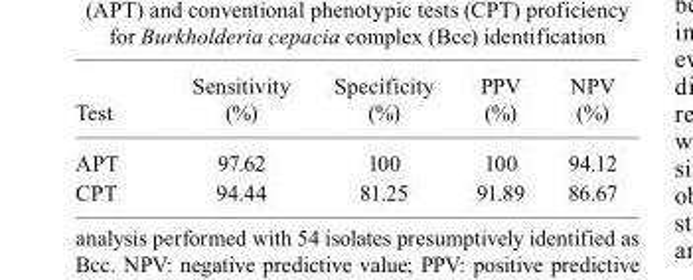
<table><thead><tr><td>Test</td><td>Sensitivity (%)</td><td>Specificity (%)</td><td>PPV (%)</td><td>NPV (%)</td></tr></thead><tbody><tr><td>APT</td><td>97.62</td><td>100</td><td>100</td><td>94.12</td></tr><tr><td>CPT</td><td>94.44</td><td>81.25</td><td>91.89</td><td>86.67</td></tr></tbody></table>